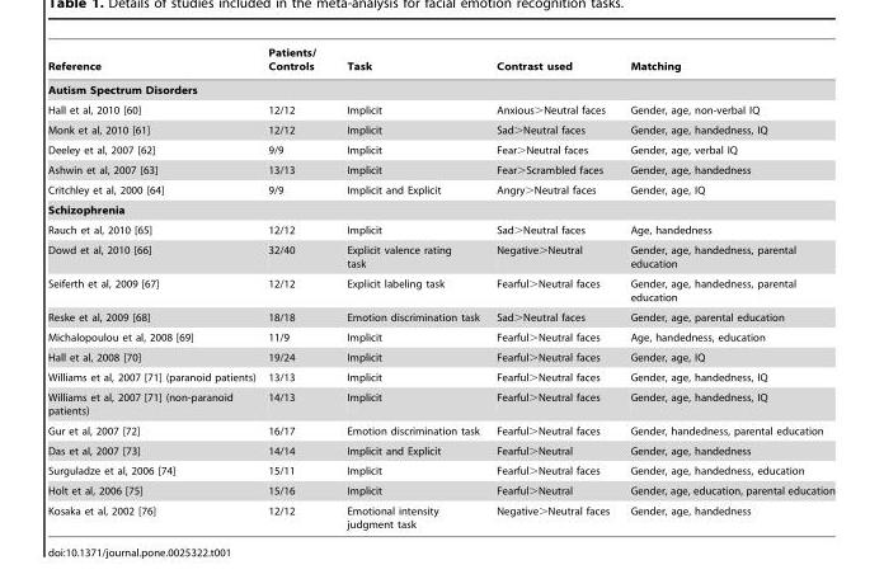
<table><thead><tr><td>Reference</td><td>Patients/ Controls</td><td>Task</td><td>Contrast used</td><td>Matching</td></tr></thead><tbody><tr><td colspan="5">Autism Spectrum Disorders</td></tr><tr><td>Hall et al, 2010 [60]</td><td>12/12</td><td>Implicit</td><td>Anxious&gt;Neutral faces</td><td>Gender, age, non-verbal IQ</td></tr><tr><td>Monk et al, 2010 [61]</td><td>12/12</td><td>Implicit</td><td>Sad&gt;Neutral faces</td><td>Gender, age, handedness, IQ</td></tr><tr><td>Deeley et al, 2007 [62]</td><td>9/9</td><td>Implicit</td><td>Fear&gt;Neutral faces</td><td>Gender, age, verbal IQ</td></tr><tr><td>Ashwin et al, 2007 [63]</td><td>13/13</td><td>Implicit</td><td>Fear&gt;Scrambled faces</td><td>Gender, age, handedness</td></tr><tr><td>Critchley et al, 2000 [64]</td><td>9/9</td><td>Implicit and Explicit</td><td>Angry&gt;Neutral faces</td><td>Gender, age, IQ</td></tr><tr><td colspan="5">Schizophrenia</td></tr><tr><td>Rauch et al, 2010 [65]</td><td>12/12</td><td>Implicit</td><td>Sad&gt;Neutral faces</td><td>Age, handedness</td></tr><tr><td>Dowd et al, 2010 [66]</td><td>32/40</td><td>Explicit valence rating task</td><td>Negative&gt;Neutral</td><td>Gender, age, handedness, parental education</td></tr><tr><td>Seiferth et al, 2009 [67]</td><td>12/12</td><td>Explicit labeling task</td><td>Fearful&gt;Neutral faces</td><td>Gender, age, handedness, parental education</td></tr><tr><td>Reske et al, 2009 [68]</td><td>18/18</td><td>Emotion discrimination task</td><td>Sad&gt;Neutral faces</td><td>Gender, age, parental education</td></tr><tr><td>Michalopoulou et al, 2008 [69]</td><td>11/9</td><td>Implicit</td><td>Fearful&gt;Neutral faces</td><td>Age, handedness, education</td></tr><tr><td>Hall et al, 2008 [70]</td><td>19/24</td><td>Implicit</td><td>Fearful&gt;Neutral faces</td><td>Gender, age, IQ</td></tr><tr><td>Williams et al, 2007 [71] (paranoid patients)</td><td>13/13</td><td>Implicit</td><td>Fearful&gt;Neutral faces</td><td>Gender, age, handedness, IQ</td></tr><tr><td>Williams et al, 2007 [71] (non-paranoid patients)</td><td>14/13</td><td>Implicit</td><td>Fearful&gt;Neutral faces</td><td>Gender, age, handedness, IQ</td></tr><tr><td>Gur et al, 2007 [72]</td><td>16/17</td><td>Emotion discrimination task</td><td>Fearful&gt;Neutral faces</td><td>Gender, handedness, parental education</td></tr><tr><td>Das et al, 2007 [73]</td><td>14/14</td><td>Implicit and Explicit</td><td>Fearful&gt;Neutral</td><td>Gender, age, handedness</td></tr><tr><td>Surguladze et al, 2006 [74]</td><td>15/11</td><td>Implicit</td><td>Fearful&gt;Neutral faces</td><td>Gender, age, handedness, education</td></tr><tr><td>Holt et al, 2006 [75]</td><td>15/16</td><td>Implicit</td><td>Fearful&gt;Neutral</td><td>Gender, age, education, parental education</td></tr><tr><td>Kosaka et al, 2002 [76]</td><td>12/12</td><td>Emotional intensity judgment task</td><td>Negative&gt;Neutral faces</td><td>Gender, age, handedness</td></tr></tbody></table>